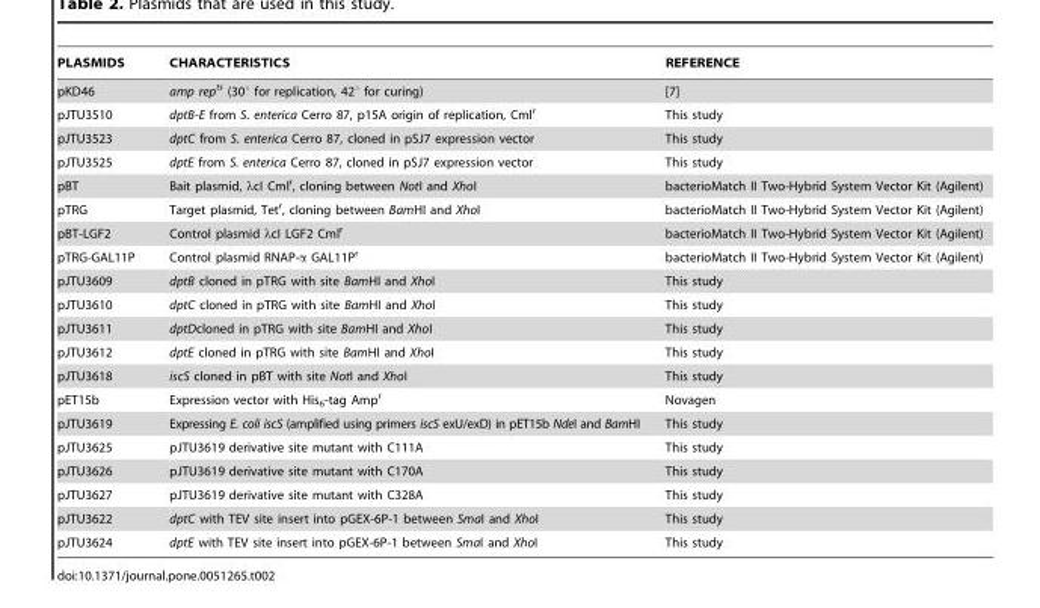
<table><thead><tr><td>PLASMIDS</td><td>CHARACTERISTICS</td><td>REFERENCE</td></tr></thead><tbody><tr><td>pKD46</td><td>amp rep<sup>ts</sup> (30° for replication, 42° for curing)</td><td>[7]</td></tr><tr><td>pJTU3510</td><td>dptB-E from S. enterica Cerro 87, p15A origin of replication, Cml<sup>r</sup></td><td>This study</td></tr><tr><td>pJTU3523</td><td>dptC from S. enterica Cerro 87, cloned in pSJ7 expression vector</td><td>This study</td></tr><tr><td>pJTU3525</td><td>dptE from S. enterica Cerro 87, cloned in pSJ7 expression vector</td><td>This study</td></tr><tr><td>pBT</td><td>Bait plasmid, λcI Cml<sup>r</sup>, cloning between NotI and XhoI</td><td>bacterioMatch II Two-Hybrid System Vector Kit (Agilent)</td></tr><tr><td>pTRG</td><td>Target plasmid, Tet<sup>r</sup>, cloning between BamHI and XhoI</td><td>bacterioMatch II Two-Hybrid System Vector Kit (Agilent)</td></tr><tr><td>pBT-LGF2</td><td>Control plasmid λcI LGF2 Cml<sup>r</sup></td><td>bacterioMatch II Two-Hybrid System Vector Kit (Agilent)</td></tr><tr><td>pTRG-GAL11P</td><td>Control plasmid RNAP-α GAL11P<sup>r</sup></td><td>bacterioMatch II Two-Hybrid System Vector Kit (Agilent)</td></tr><tr><td>pJTU3609</td><td>dptB cloned in pTRG with site BamHI and XhoI</td><td>This study</td></tr><tr><td>pJTU3610</td><td>dptC cloned in pTRG with site BamHI and XhoI</td><td>This study</td></tr><tr><td>pJTU3611</td><td>dptDcloned in pTRG with site BamHI and XhoI</td><td>This study</td></tr><tr><td>pJTU3612</td><td>dptE cloned in pTRG with site BamHI and XhoI</td><td>This study</td></tr><tr><td>pJTU3618</td><td>iscS cloned in pBT with site NotI and XhoI</td><td>This study</td></tr><tr><td>pET15b</td><td>Expression vector with His<sub>6</sub>-tag Amp<sup>r</sup></td><td>Novagen</td></tr><tr><td>pJTU3619</td><td>Expressing E. coli iscS (amplified using primers iscS exU/exD) in pET15b NdeI and BamHI</td><td>This study</td></tr><tr><td>pJTU3625</td><td>pJTU3619 derivative site mutant with C111A</td><td>This study</td></tr><tr><td>pJTU3626</td><td>pJTU3619 derivative site mutant with C170A</td><td>This study</td></tr><tr><td>pJTU3627</td><td>pJTU3619 derivative site mutant with C328A</td><td>This study</td></tr><tr><td>pJTU3622</td><td>dptC with TEV site insert into pGEX-6P-1 between SmaI and XhoI</td><td>This study</td></tr><tr><td>pJTU3624</td><td>dptE with TEV site insert into pGEX-6P-1 between SmaI and XhoI</td><td>This study</td></tr></tbody></table>